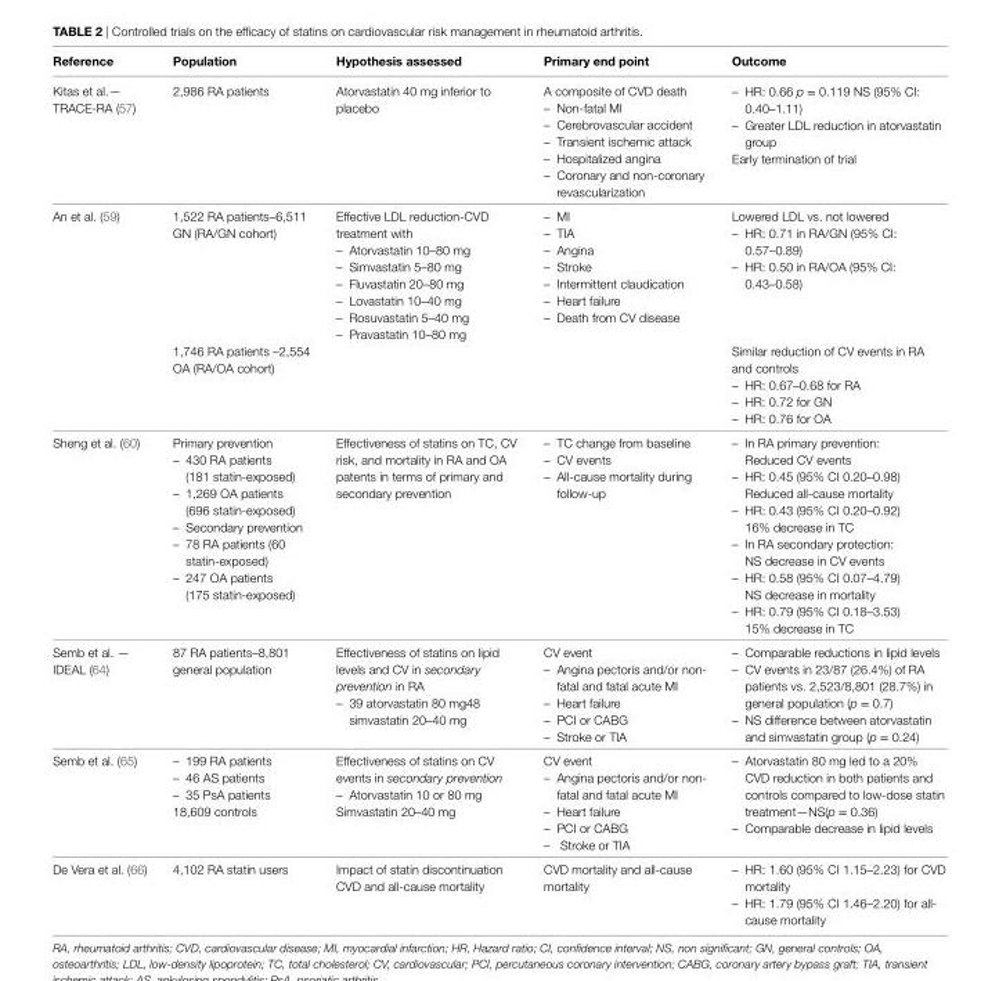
<table><thead><tr><td>Reference</td><td>Population</td><td>Hypothesis assessed</td><td>Primary end point</td><td>Outcome</td></tr></thead><tbody><tr><td>Kitas et al.— TRACE-RA (57)</td><td>2,986 RA patients</td><td>Atorvastatin 40 mg inferior to placebo</td><td>A composite of CVD death – Non-fatal MI – Cerebrovascular accident – Transient ischemic attack – Hospitalized angina – Coronary and non-coronary revascularization</td><td>– HR: 0.66 p = 0.119 NS (95% CI: 0.40–1.11) – Greater LDL reduction in atorvastatin group Early termination of trial</td></tr><tr><td rowspan="2">An et al. (59)</td><td>1,522 RA patients–6,511 GN (RA/GN cohort)</td><td>Effective LDL reduction-CVD treatment with – Atorvastatin 10–80 mg – Simvastatin 5–80 mg – Fluvastatin 20–80 mg – Lovastatin 10–40 mg – Rosuvastatin 5–40 mg – Pravastatin 10–80 mg</td><td>– MI – TIA – Angina – Stroke – Intermittent claudication – Heart failure – Death from CV disease</td><td>Lowered LDL vs. not lowered – HR: 0.71 in RA/GN (95% CI: 0.57–0.89) – HR: 0.50 in RA/OA (95% CI: 0.43–0.58)</td></tr><tr><td>1,746 RA patients –2,554 OA (RA/OA cohort)</td><td></td><td></td><td>Similar reduction of CV events in RA and controls – HR: 0.67–0.68 for RA – HR: 0.72 for GN – HR: 0.76 for OA</td></tr><tr><td>Sheng et al. (60)</td><td>Primary prevention – 430 RA patients (181 statin-exposed) – 1,269 OA patients (696 statin-exposed) – Secondary prevention – 78 RA patients (60 statin-exposed) – 247 OA patients (175 statin-exposed)</td><td>Effectiveness of statins on TC, CV risk, and mortality in RA and OA patents in terms of primary and secondary prevention</td><td>– TC change from baseline – CV events – All-cause mortality during follow-up</td><td>– In RA primary prevention: Reduced CV events – HR: 0.45 (95% CI 0.20–0.98) Reduced all-cause mortality – HR: 0.43 (95% CI 0.20–0.92) 16% decrease in TC – In RA secondary protection: NS decrease in CV events – HR: 0.58 (95% CI 0.07–4.79) NS decrease in mortality – HR: 0.79 (95% CI 0.18–3.53) 15% decrease in TC</td></tr><tr><td>Semb et al. — IDEAL (64)</td><td>87 RA patients–8,801 general population</td><td>Effectiveness of statins on lipid levels and CV in secondary prevention in RA – 39 atorvastatin 80 mg48 simvastatin 20–40 mg</td><td>CV event – Angina pectoris and/or non- fatal and fatal acute MI – Heart failure – PCI or CABG – Stroke or TIA</td><td>– Comparable reductions in lipid levels – CV events in 23/87 (26.4%) of RA patients vs. 2,523/8,801 (28.7%) in general population (p = 0.7) – NS difference between atorvastatin and simvastatin group (p = 0.24)</td></tr><tr><td>Semb et al. (65)</td><td>– 199 RA patients – 46 AS patients – 35 PsA patients 18,609 controls</td><td>Effectiveness of statins on CV events in secondary prevention – Atorvastatin 10 or 80 mg Simvastatin 20–40 mg</td><td>CV event – Angina pectoris and/or non- fatal and fatal acute MI – Heart failure – PCI or CABG – Stroke or TIA</td><td>– Atorvastatin 80 mg led to a 20% CVD reduction in both patients and controls compared to low-dose statin treatment—NS(p = 0.36) – Comparable decrease in lipid levels</td></tr><tr><td>De Vera et al. (66)</td><td>4,102 RA statin users</td><td>Impact of statin discontinuation CVD and all-cause mortality</td><td>CVD mortality and all-cause mortality</td><td>– HR: 1.60 (95% CI 1.15–2.23) for CVD mortality – HR: 1.79 (95% CI 1.46–2.20) for all- cause mortality</td></tr></tbody></table>